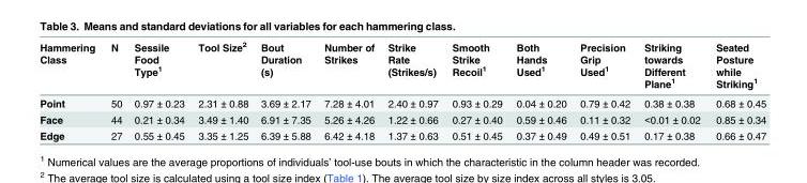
<table><thead><tr><td>Hammering Class</td><td>N</td><td>Sessile Food Type<sup>1</sup></td><td>Tool Size<sup>2</sup></td><td>Bout Duration (s)</td><td>Number of Strikes</td><td>Strike Rate (Strikes/s)</td><td>Smooth Strike Recoil<sup>1</sup></td><td>Both Hands Used<sup>1</sup></td><td>Precision Grip Used<sup>1</sup></td><td>Striking towards Different Plane<sup>1</sup></td><td>Seated Posture while Striking<sup>1</sup></td></tr></thead><tbody><tr><td>Point</td><td>50</td><td>0.97 ± 0.23</td><td>2.31 ± 0.88</td><td>3.69 ± 2.17</td><td>7.28 ± 4.01</td><td>2.40 ± 0.97</td><td>0.93 ± 0.29</td><td>0.04 ± 0.20</td><td>0.79 ± 0.42</td><td>0.38 ± 0.38</td><td>0.68 ± 0.45</td></tr><tr><td>Face</td><td>44</td><td>0.21 ± 0.34</td><td>3.49 ± 1.40</td><td>6.91 ± 7.35</td><td>5.26 ± 4.26</td><td>1.22 ± 0.66</td><td>0.27 ± 0.40</td><td>0.59 ± 0.46</td><td>0.11 ± 0.32</td><td>&lt;0.01 ± 0.02</td><td>0.85 ± 0.34</td></tr><tr><td>Edge</td><td>27</td><td>0.55 ± 0.45</td><td>3.35 ± 1.25</td><td>6.39 ± 5.88</td><td>6.42 ± 4.18</td><td>1.37 ± 0.63</td><td>0.51 ± 0.45</td><td>0.37 ± 0.49</td><td>0.49 ± 0.51</td><td>0.17 ± 0.38</td><td>0.66 ± 0.47</td></tr></tbody></table>